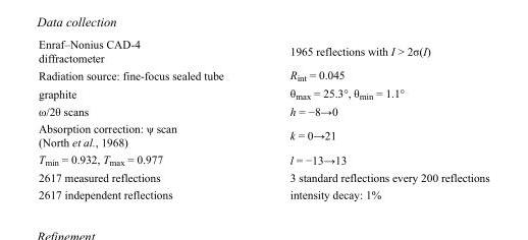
<table><tbody><tr><td>Enraf–Nonius CAD-4 diffractometer</td><td>1965 reflections with I &gt; 2σ(I)</td></tr><tr><td>Radiation source: fine-focus sealed tube</td><td>R<sub>int</sub> = 0.045</td></tr><tr><td>graphite</td><td>θ<sub>max</sub> = 25.3°, θ<sub>min</sub> = 1.1°</td></tr><tr><td>ω/2θ scans</td><td>h = −8→0</td></tr><tr><td>Absorption correction: ψ scan (North et al., 1968)</td><td>k = 0→21</td></tr><tr><td>T<sub>min</sub> = 0.932, T<sub>max</sub> = 0.977</td><td>l = −13→13</td></tr><tr><td>2617 measured reflections</td><td>3 standard reflections every 200 reflections</td></tr><tr><td>2617 independent reflections</td><td>intensity decay: 1%</td></tr></tbody></table>